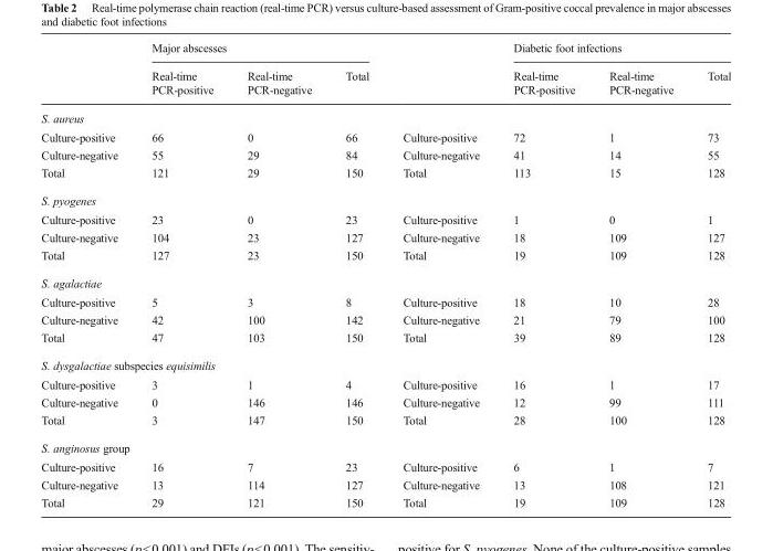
<table><thead><tr><td rowspan="2"></td><td colspan="3">Major abscesses</td><td rowspan="2"></td><td colspan="3">Diabetic foot infections</td></tr><tr><td>Real-time PCR-positive</td><td>Real-time PCR-negative</td><td>Total</td><td>Real-time PCR-positive</td><td>Real-time PCR-negative</td><td>Total</td></tr></thead><tbody><tr><td colspan="8">S. aureus</td></tr><tr><td>Culture-positive</td><td>66</td><td>0</td><td>66</td><td>Culture-positive</td><td>72</td><td>1</td><td>73</td></tr><tr><td>Culture-negative</td><td>55</td><td>29</td><td>84</td><td>Culture-negative</td><td>41</td><td>14</td><td>55</td></tr><tr><td>Total</td><td>121</td><td>29</td><td>150</td><td>Total</td><td>113</td><td>15</td><td>128</td></tr><tr><td colspan="8">S. pyogenes</td></tr><tr><td>Culture-positive</td><td>23</td><td>0</td><td>23</td><td>Culture-positive</td><td>1</td><td>0</td><td>1</td></tr><tr><td>Culture-negative</td><td>104</td><td>23</td><td>127</td><td>Culture-negative</td><td>18</td><td>109</td><td>127</td></tr><tr><td>Total</td><td>127</td><td>23</td><td>150</td><td>Total</td><td>19</td><td>109</td><td>128</td></tr><tr><td colspan="8">S. agalactiae</td></tr><tr><td>Culture-positive</td><td>5</td><td>3</td><td>8</td><td>Culture-positive</td><td>18</td><td>10</td><td>28</td></tr><tr><td>Culture-negative</td><td>42</td><td>100</td><td>142</td><td>Culture-negative</td><td>21</td><td>79</td><td>100</td></tr><tr><td>Total</td><td>47</td><td>103</td><td>150</td><td>Total</td><td>39</td><td>89</td><td>128</td></tr><tr><td colspan="8">S. dysgalactiae subspecies equisimilis</td></tr><tr><td>Culture-positive</td><td>3</td><td>1</td><td>4</td><td>Culture-positive</td><td>16</td><td>1</td><td>17</td></tr><tr><td>Culture-negative</td><td>0</td><td>146</td><td>146</td><td>Culture-negative</td><td>12</td><td>99</td><td>111</td></tr><tr><td>Total</td><td>3</td><td>147</td><td>150</td><td>Total</td><td>28</td><td>100</td><td>128</td></tr><tr><td colspan="8">S. anginosus group</td></tr><tr><td>Culture-positive</td><td>16</td><td>7</td><td>23</td><td>Culture-positive</td><td>6</td><td>1</td><td>7</td></tr><tr><td>Culture-negative</td><td>13</td><td>114</td><td>127</td><td>Culture-negative</td><td>13</td><td>108</td><td>121</td></tr><tr><td>Total</td><td>29</td><td>121</td><td>150</td><td>Total</td><td>19</td><td>109</td><td>128</td></tr></tbody></table>